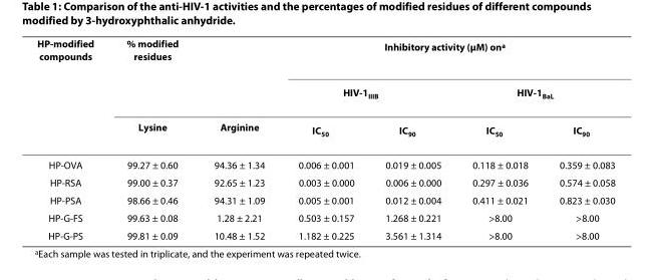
<table><thead><tr><td rowspan="3">HP-modified compounds</td><td rowspan="3">% modified residues Lysine</td><td rowspan="3">Arginine</td><td colspan="4">Inhibitory activity (μM) on<sup>a</sup></td></tr><tr><td colspan="2">HIV-1<sub>IIIB</sub></td><td colspan="2">HIV-1<sub>BaL</sub></td></tr><tr><td>IC<sub>50</sub></td><td>IC<sub>90</sub></td><td>IC<sub>50</sub></td><td>IC<sub>90</sub></td></tr></thead><tbody><tr><td>HP-OVA</td><td>99.27 ± 0.60</td><td>94.36 ± 1.34</td><td>0.006 ± 0.001</td><td>0.019 ± 0.005</td><td>0.118 ± 0.018</td><td>0.359 ± 0.083</td></tr><tr><td>HP-RSA</td><td>99.00 ± 0.37</td><td>92.65 ± 1.23</td><td>0.003 ± 0.000</td><td>0.006 ± 0.000</td><td>0.297 ± 0.036</td><td>0.574 ± 0.058</td></tr><tr><td>HP-PSA</td><td>98.66 ± 0.46</td><td>94.31 ± 1.09</td><td>0.005 ± 0.001</td><td>0.012 ± 0.004</td><td>0.411 ± 0.021</td><td>0.823 ± 0.030</td></tr><tr><td>HP-G-FS</td><td>99.63 ± 0.08</td><td>1.28 ± 2.21</td><td>0.503 ± 0.157</td><td>1.268 ± 0.221</td><td>&gt;8.00</td><td>&gt;8.00</td></tr><tr><td>HP-G-PS</td><td>99.81 ± 0.09</td><td>10.48 ± 1.52</td><td>1.182 ± 0.225</td><td>3.561 ± 1.314</td><td>&gt;8.00</td><td>&gt;8.00</td></tr></tbody></table>